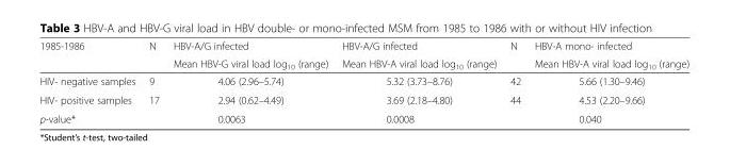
<table><thead><tr><td rowspan="2">1985-1986</td><td rowspan="2">N</td><td rowspan="2">HBV-A/G infected Mean HBV-G viral load log<sub>10</sub> (range)</td><td rowspan="2">HBV-A/G infected Mean HBV-A viral load log<sub>10</sub> (range)</td><td rowspan="2">N</td><td rowspan="2">HBV-A mono- infected Mean HBV-A viral load log<sub>10</sub> (range)</td></tr><tr></tr></thead><tbody><tr><td>HIV- negative samples</td><td>9</td><td>4.06 (2.96–5.74)</td><td>5.32 (3.73–8.76)</td><td>42</td><td>5.66 (1.30–9.46)</td></tr><tr><td>HIV- positive samples</td><td>17</td><td>2.94 (0.62–4.49)</td><td>3.69 (2.18–4.80)</td><td>44</td><td>4.53 (2.20–9.66)</td></tr><tr><td>p-value*</td><td></td><td>0.0063</td><td>0.0008</td><td></td><td>0.040</td></tr></tbody></table>